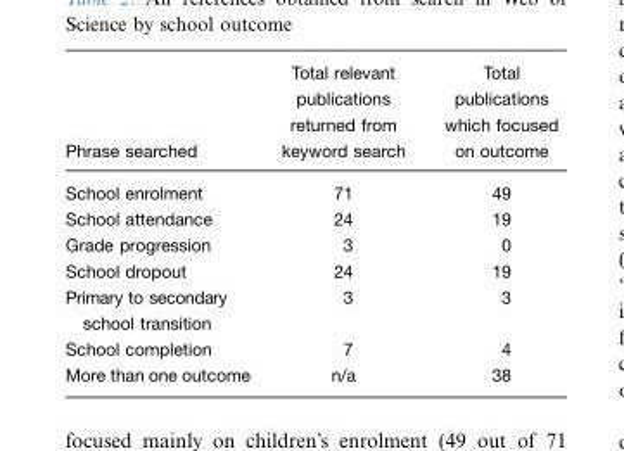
<table><thead><tr><td>Phrase searched</td><td>Total relevant publications returned from keyword search</td><td>Total publications which focused on outcome</td></tr></thead><tbody><tr><td>School enrolment</td><td>71</td><td>49</td></tr><tr><td>School attendance</td><td>24</td><td>19</td></tr><tr><td>Grade progression</td><td>3</td><td>0</td></tr><tr><td>School dropout</td><td>24</td><td>19</td></tr><tr><td>Primary to secondary school transition</td><td>3</td><td>3</td></tr><tr><td>School completion</td><td>7</td><td>4</td></tr><tr><td>More than one outcome</td><td>n/a</td><td>38</td></tr></tbody></table>